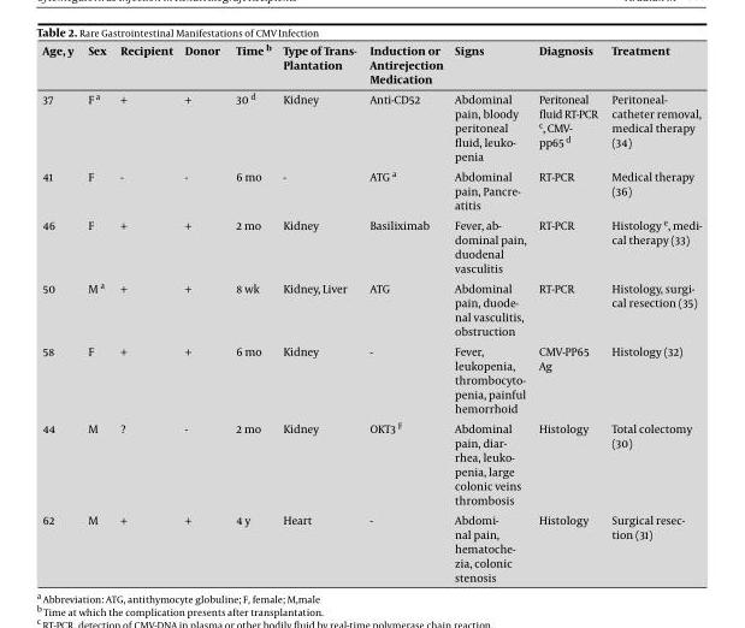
<table><thead><tr><td>Age, y</td><td>Sex</td><td>Recipient</td><td>Donor</td><td>Time b</td><td>Type of Trans- Plantation</td><td>Induction or Antirejection Medication</td><td>Signs</td><td>Diagnosis</td><td>Treatment</td></tr></thead><tbody><tr><td>37</td><td>F a</td><td>+</td><td>+</td><td>30 d</td><td>Kidney</td><td>Anti-CD52</td><td>Abdominal pain, bloody peritoneal fluid, leuko- penia</td><td>Peritoneal fluid RT-PCR c, CMV- pp65 d</td><td>Peritoneal- catheter removal, medical therapy (34)</td></tr><tr><td>41</td><td>F</td><td>-</td><td>-</td><td>6 mo</td><td>-</td><td>ATG a</td><td>Abdominal pain, Pancre- atitis</td><td>RT-PCR</td><td>Medical therapy (36)</td></tr><tr><td>46</td><td>F</td><td>+</td><td>+</td><td>2 mo</td><td>Kidney</td><td>Basiliximab</td><td>Fever, ab- dominal pain, duodenal vasculitis</td><td>RT-PCR</td><td>Histology e, medi- cal therapy (33)</td></tr><tr><td>50</td><td>M a</td><td>+</td><td>+</td><td>8 wk</td><td>Kidney, Liver</td><td>ATG</td><td>Abdominal pain, duode- nal vasculitis, obstruction</td><td>RT-PCR</td><td>Histology, surgi- cal resection (35)</td></tr><tr><td>58</td><td>F</td><td>+</td><td>+</td><td>6 mo</td><td>Kidney</td><td>-</td><td>Fever, leukopenia, thrombocyto- penia, painful hemorrhoid</td><td>CMV-PP65 Ag</td><td>Histology (32)</td></tr><tr><td>44</td><td>M</td><td>?</td><td>-</td><td>2 mo</td><td>Kidney</td><td>OKT3 F</td><td>Abdominal pain, diar- rhea, leuko- penia, large colonic veins thrombosis</td><td>Histology</td><td>Total colectomy (30)</td></tr><tr><td>62</td><td>M</td><td>+</td><td>+</td><td>4 y</td><td>Heart</td><td>-</td><td>Abdomi- nal pain, hematoche- zia, colonic stenosis</td><td>Histology</td><td>Surgical resec- tion (31)</td></tr></tbody></table>